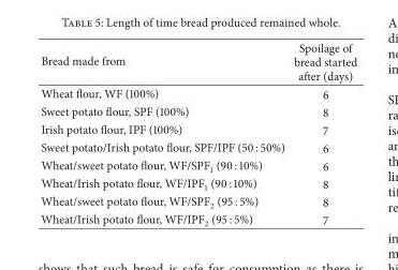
<table><thead><tr><td>Bread made from</td><td>Spoilage of bread started after (days)</td></tr></thead><tbody><tr><td>Wheat flour, WF (100%)</td><td>6</td></tr><tr><td>Sweet potato flour, SPF (100%)</td><td>8</td></tr><tr><td>Irish potato flour, IPF (100%)</td><td>7</td></tr><tr><td>Sweet potato/Irish potato flour, SPF/IPF (50 : 50%)</td><td>6</td></tr><tr><td>Wheat/sweet potato flour, WF/SPF<sub>1</sub> (90 : 10%)</td><td>6</td></tr><tr><td>Wheat/Irish potato flour, WF/IPF<sub>1</sub> (90 : 10%)</td><td>8</td></tr><tr><td>Wheat/sweet potato flour, WF/SPF<sub>2</sub> (95 : 5%)</td><td>8</td></tr><tr><td>Wheat/Irish potato flour, WF/IPF<sub>2</sub> (95 : 5%)</td><td>7</td></tr></tbody></table>